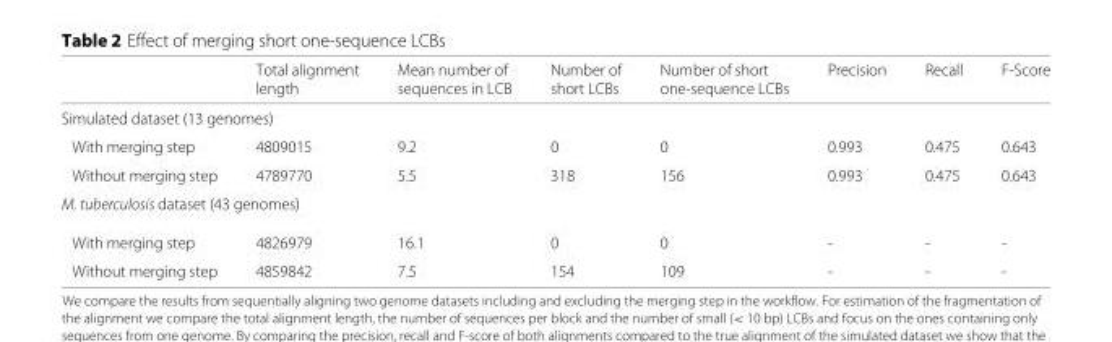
<table><thead><tr><td rowspan="2"></td><td rowspan="2">Total alignment length</td><td rowspan="2">Mean number of sequences in LCB</td><td rowspan="2">Number of short LCBs</td><td rowspan="2">Number of short one-sequence LCBs</td><td rowspan="2">Precision</td><td rowspan="2">Recall</td><td rowspan="2">F-Score</td></tr><tr></tr></thead><tbody><tr><td colspan="8">Simulated dataset (13 genomes)</td></tr><tr><td>With merging step</td><td>4809015</td><td>9.2</td><td>0</td><td>0</td><td>0.993</td><td>0.475</td><td>0.643</td></tr><tr><td>Without merging step</td><td>4789770</td><td>5.5</td><td>318</td><td>156</td><td>0.993</td><td>0.475</td><td>0.643</td></tr><tr><td colspan="8">M. tuberculosis dataset (43 genomes)</td></tr><tr><td>With merging step</td><td>4826979</td><td>16.1</td><td>0</td><td>0</td><td>-</td><td>-</td><td>-</td></tr><tr><td>Without merging step</td><td>4859842</td><td>7.5</td><td>154</td><td>109</td><td>-</td><td>-</td><td>-</td></tr></tbody></table>